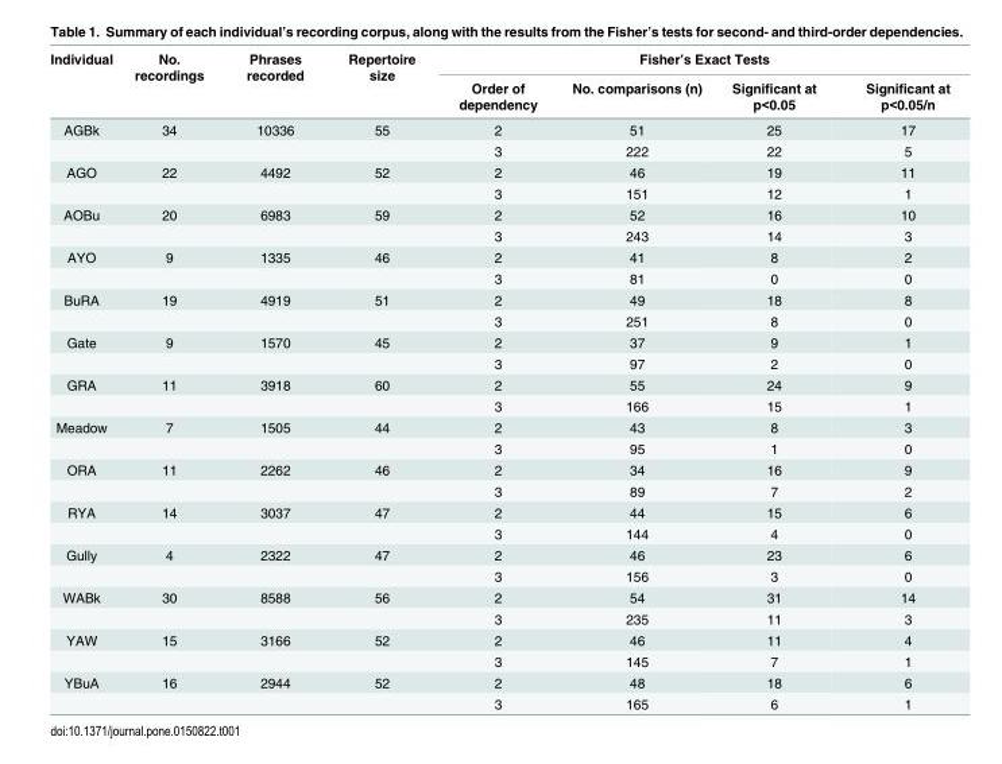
<table><thead><tr><td rowspan="2">Individual</td><td rowspan="2">No. recordings</td><td rowspan="2">Phrases recorded</td><td rowspan="2">Repertoire size</td><td colspan="4">Fisher’s Exact Tests</td></tr><tr><td>Order of dependency</td><td>No. comparisons (n)</td><td>Significant at p&lt;0.05</td><td>Significant at p&lt;0.05/n</td></tr></thead><tbody><tr><td rowspan="2">AGBk</td><td>34</td><td>10336</td><td>55</td><td>2</td><td>51</td><td>25</td><td>17</td></tr><tr><td></td><td></td><td></td><td>3</td><td>222</td><td>22</td><td>5</td></tr><tr><td rowspan="2">AGO</td><td>22</td><td>4492</td><td>52</td><td>2</td><td>46</td><td>19</td><td>11</td></tr><tr><td></td><td></td><td></td><td>3</td><td>151</td><td>12</td><td>1</td></tr><tr><td rowspan="2">AOBu</td><td>20</td><td>6983</td><td>59</td><td>2</td><td>52</td><td>16</td><td>10</td></tr><tr><td></td><td></td><td></td><td>3</td><td>243</td><td>14</td><td>3</td></tr><tr><td rowspan="2">AYO</td><td>9</td><td>1335</td><td>46</td><td>2</td><td>41</td><td>8</td><td>2</td></tr><tr><td></td><td></td><td></td><td>3</td><td>81</td><td>0</td><td>0</td></tr><tr><td rowspan="2">BuRA</td><td>19</td><td>4919</td><td>51</td><td>2</td><td>49</td><td>18</td><td>8</td></tr><tr><td></td><td></td><td></td><td>3</td><td>251</td><td>8</td><td>0</td></tr><tr><td rowspan="2">Gate</td><td>9</td><td>1570</td><td>45</td><td>2</td><td>37</td><td>9</td><td>1</td></tr><tr><td></td><td></td><td></td><td>3</td><td>97</td><td>2</td><td>0</td></tr><tr><td rowspan="2">GRA</td><td>11</td><td>3918</td><td>60</td><td>2</td><td>55</td><td>24</td><td>9</td></tr><tr><td></td><td></td><td></td><td>3</td><td>166</td><td>15</td><td>1</td></tr><tr><td rowspan="2">Meadow</td><td>7</td><td>1505</td><td>44</td><td>2</td><td>43</td><td>8</td><td>3</td></tr><tr><td></td><td></td><td></td><td>3</td><td>95</td><td>1</td><td>0</td></tr><tr><td rowspan="2">ORA</td><td>11</td><td>2262</td><td>46</td><td>2</td><td>34</td><td>16</td><td>9</td></tr><tr><td></td><td></td><td></td><td>3</td><td>89</td><td>7</td><td>2</td></tr><tr><td rowspan="2">RYA</td><td>14</td><td>3037</td><td>47</td><td>2</td><td>44</td><td>15</td><td>6</td></tr><tr><td></td><td></td><td></td><td>3</td><td>144</td><td>4</td><td>0</td></tr><tr><td rowspan="2">Gully</td><td>4</td><td>2322</td><td>47</td><td>2</td><td>46</td><td>23</td><td>6</td></tr><tr><td></td><td></td><td></td><td>3</td><td>156</td><td>3</td><td>0</td></tr><tr><td rowspan="2">WABk</td><td>30</td><td>8588</td><td>56</td><td>2</td><td>54</td><td>31</td><td>14</td></tr><tr><td></td><td></td><td></td><td>3</td><td>235</td><td>11</td><td>3</td></tr><tr><td rowspan="2">YAW</td><td>15</td><td>3166</td><td>52</td><td>2</td><td>46</td><td>11</td><td>4</td></tr><tr><td></td><td></td><td></td><td>3</td><td>145</td><td>7</td><td>1</td></tr><tr><td rowspan="2">YBuA</td><td>16</td><td>2944</td><td>52</td><td>2</td><td>48</td><td>18</td><td>6</td></tr><tr><td></td><td></td><td></td><td>3</td><td>165</td><td>6</td><td>1</td></tr></tbody></table>